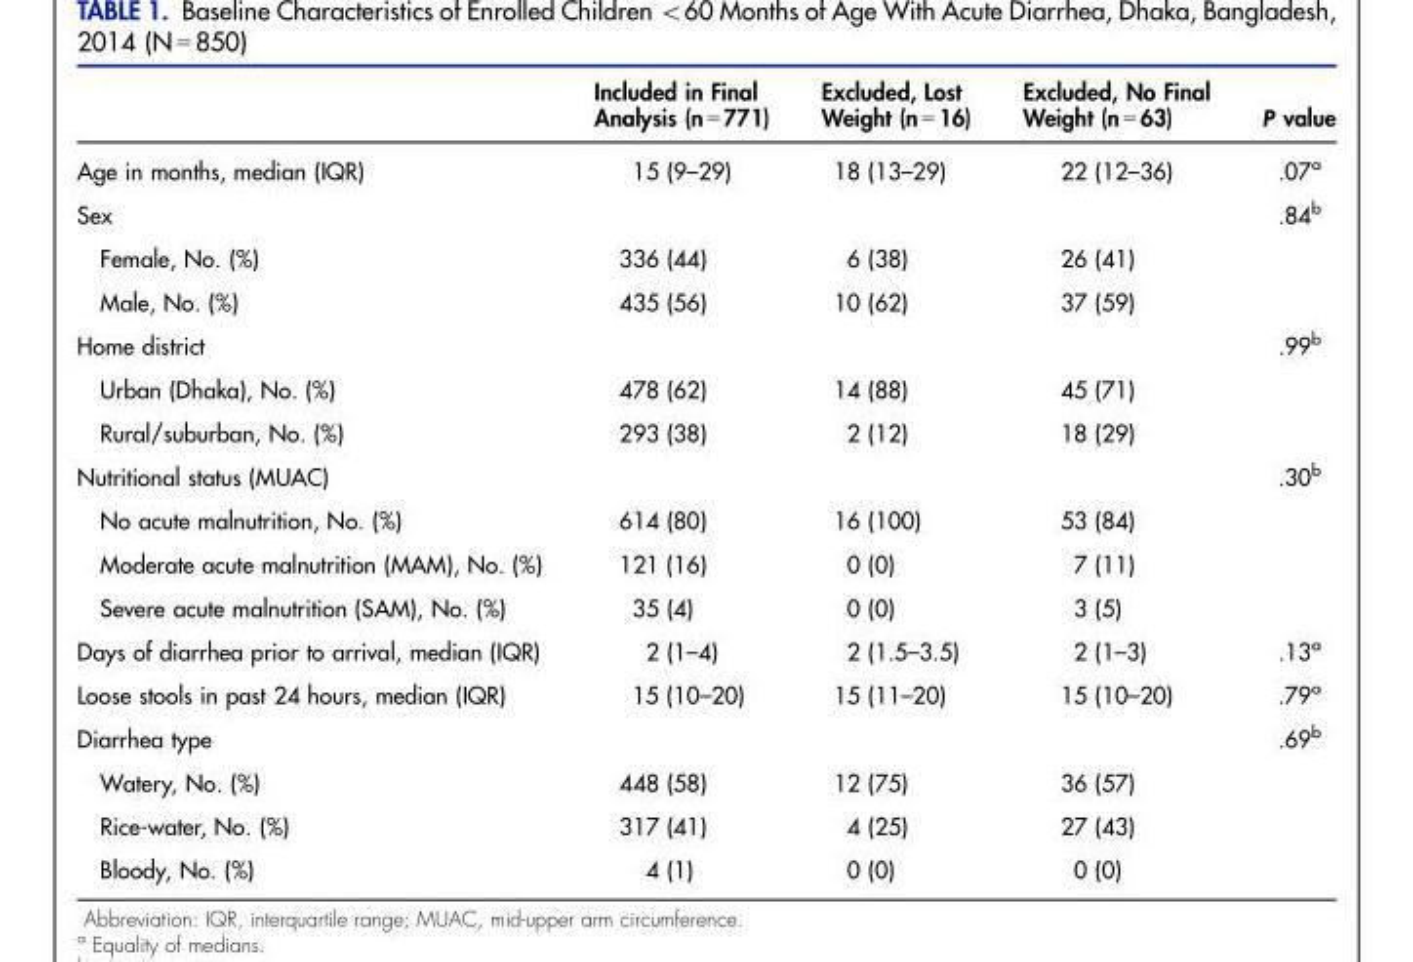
<table><thead><tr><td></td><td>Included in Final Analysis (n = 771)</td><td>Excluded, Lost Weight (n = 16)</td><td>Excluded, No Final Weight (n = 63)</td><td>P value</td></tr></thead><tbody><tr><td>Age in months, median (IQR)</td><td>15 (9–29)</td><td>18 (13–29)</td><td>22 (12–36)</td><td>.07<sup>a</sup></td></tr><tr><td>Sex</td><td></td><td></td><td></td><td>.84<sup>b</sup></td></tr><tr><td>Female, No. (%)</td><td>336 (44)</td><td>6 (38)</td><td>26 (41)</td><td></td></tr><tr><td>Male, No. (%)</td><td>435 (56)</td><td>10 (62)</td><td>37 (59)</td><td></td></tr><tr><td>Home district</td><td></td><td></td><td></td><td>.99<sup>b</sup></td></tr><tr><td>Urban (Dhaka), No. (%)</td><td>478 (62)</td><td>14 (88)</td><td>45 (71)</td><td></td></tr><tr><td>Rural/suburban, No. (%)</td><td>293 (38)</td><td>2 (12)</td><td>18 (29)</td><td></td></tr><tr><td>Nutritional status (MUAC)</td><td></td><td></td><td></td><td>.30<sup>b</sup></td></tr><tr><td>No acute malnutrition, No. (%)</td><td>614 (80)</td><td>16 (100)</td><td>53 (84)</td><td></td></tr><tr><td>Moderate acute malnutrition (MAM), No. (%)</td><td>121 (16)</td><td>0 (0)</td><td>7 (11)</td><td></td></tr><tr><td>Severe acute malnutrition (SAM), No. (%)</td><td>35 (4)</td><td>0 (0)</td><td>3 (5)</td><td></td></tr><tr><td>Days of diarrhea prior to arrival, median (IQR)</td><td>2 (1–4)</td><td>2 (1.5–3.5)</td><td>2 (1–3)</td><td>.13<sup>a</sup></td></tr><tr><td>Loose stools in past 24 hours, median (IQR)</td><td>15 (10–20)</td><td>15 (11–20)</td><td>15 (10–20)</td><td>.79<sup>a</sup></td></tr><tr><td>Diarrhea type</td><td></td><td></td><td></td><td>.69<sup>b</sup></td></tr><tr><td>Watery, No. (%)</td><td>448 (58)</td><td>12 (75)</td><td>36 (57)</td><td></td></tr><tr><td>Rice-water, No. (%)</td><td>317 (41)</td><td>4 (25)</td><td>27 (43)</td><td></td></tr><tr><td>Bloody, No. (%)</td><td>4 (1)</td><td>0 (0)</td><td>0 (0)</td><td></td></tr></tbody></table>